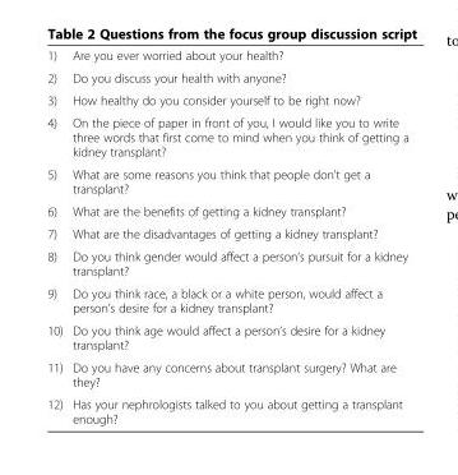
<table><tbody><tr><td>1)</td><td>Are you ever worried about your health?</td></tr><tr><td>2)</td><td>Do you discuss your health with anyone?</td></tr><tr><td>3)</td><td>How healthy do you consider yourself to be right now?</td></tr><tr><td>4)</td><td>On the piece of paper in front of you, I would like you to write three words that first come to mind when you think of getting a kidney transplant?</td></tr><tr><td>5)</td><td>What are some reasons you think that people don’t get a transplant?</td></tr><tr><td>6)</td><td>What are the benefits of getting a kidney transplant?</td></tr><tr><td>7)</td><td>What are the disadvantages of getting a kidney transplant?</td></tr><tr><td>8)</td><td>Do you think gender would affect a person’s pursuit for a kidney transplant?</td></tr><tr><td>9)</td><td>Do you think race, a black or a white person, would affect a person’s desire for a kidney transplant?</td></tr><tr><td>10)</td><td>Do you think age would affect a person’s desire for a kidney transplant?</td></tr><tr><td>11)</td><td>Do you have any concerns about transplant surgery? What are they?</td></tr><tr><td>12)</td><td>Has your nephrologists talked to you about getting a transplant enough?</td></tr></tbody></table>